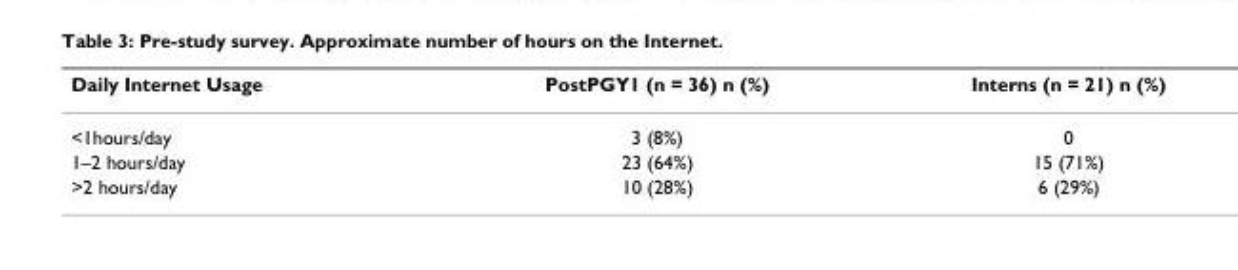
<table><thead><tr><td>Daily Internet Usage</td><td>PostPGY1 (n = 36) n (%)</td><td>Interns (n = 21) n (%)</td></tr></thead><tbody><tr><td>&lt;1hours/day</td><td>3 (8%)</td><td>0</td></tr><tr><td>1–2 hours/day</td><td>23 (64%)</td><td>15 (71%)</td></tr><tr><td>&gt;2 hours/day</td><td>10 (28%)</td><td>6 (29%)</td></tr></tbody></table>